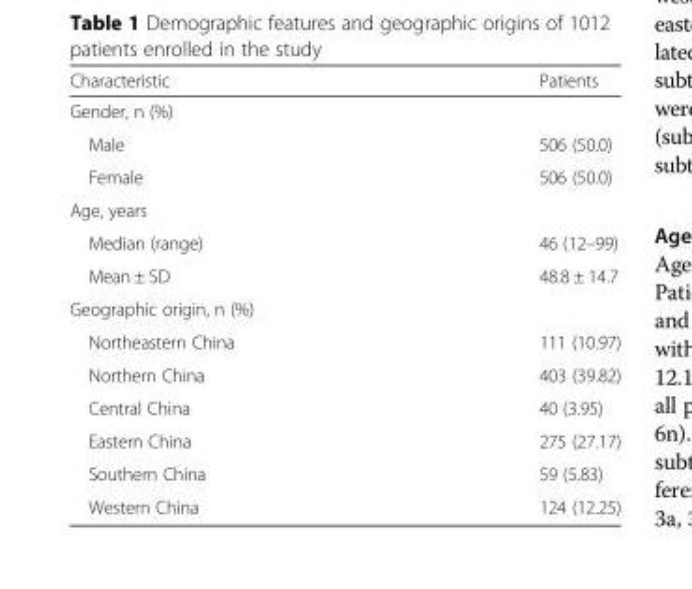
<table><thead><tr><td>Characteristic</td><td>Patients</td></tr></thead><tbody><tr><td colspan="2">Gender, n (%)</td></tr><tr><td>Male</td><td>506 (50.0)</td></tr><tr><td>Female</td><td>506 (50.0)</td></tr><tr><td colspan="2">Age, years</td></tr><tr><td>Median (range)</td><td>46 (12–99)</td></tr><tr><td>Mean ± SD</td><td>48.8 ± 14.7</td></tr><tr><td colspan="2">Geographic origin, n (%)</td></tr><tr><td>Northeastern China</td><td>111 (10.97)</td></tr><tr><td>Northern China</td><td>403 (39.82)</td></tr><tr><td>Central China</td><td>40 (3.95)</td></tr><tr><td>Eastern China</td><td>275 (27.17)</td></tr><tr><td>Southern China</td><td>59 (5.83)</td></tr><tr><td>Western China</td><td>124 (12.25)</td></tr></tbody></table>